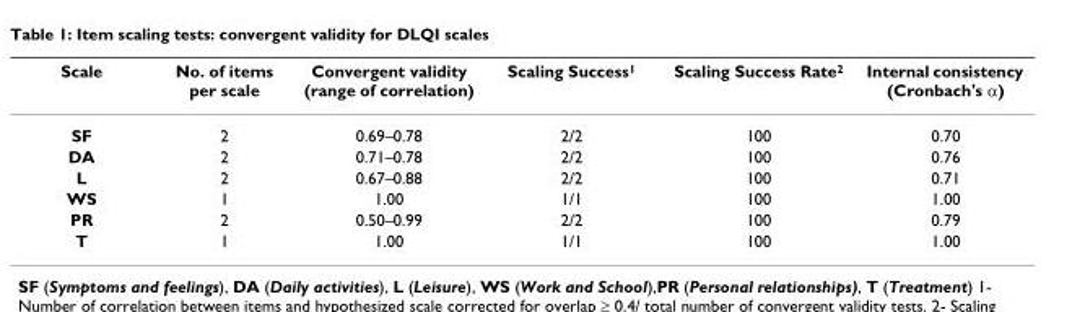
<table><thead><tr><td>Scale</td><td>No. of items per scale</td><td>Convergent validity (range of correlation)</td><td>Scaling Success<sup>1</sup></td><td>Scaling Success Rate<sup>2</sup></td><td>Internal consistency (Cronbach&#x27;s α)</td></tr></thead><tbody><tr><td>SF</td><td>2</td><td>0.69–0.78</td><td>2/2</td><td>100</td><td>0.70</td></tr><tr><td>DA</td><td>2</td><td>0.71–0.78</td><td>2/2</td><td>100</td><td>0.76</td></tr><tr><td>L</td><td>2</td><td>0.67–0.88</td><td>2/2</td><td>100</td><td>0.71</td></tr><tr><td>WS</td><td>1</td><td>1.00</td><td>1/1</td><td>100</td><td>1.00</td></tr><tr><td>PR</td><td>2</td><td>0.50–0.99</td><td>2/2</td><td>100</td><td>0.79</td></tr><tr><td>T</td><td>1</td><td>1.00</td><td>1/1</td><td>100</td><td>1.00</td></tr></tbody></table>